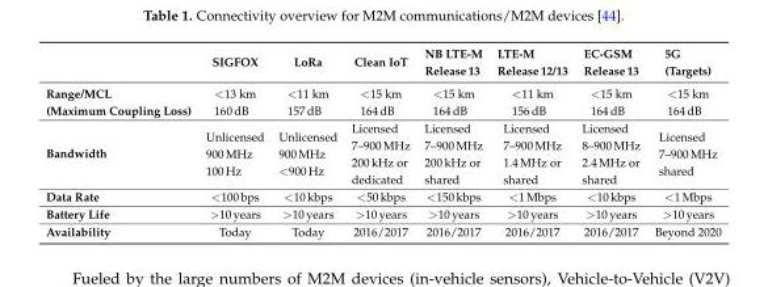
<table><thead><tr><td></td><td>SIGFOX</td><td>LoRa</td><td>Clean IoT</td><td>NB LTE-M Release 13</td><td>LTE-M Release 12/13</td><td>EC-GSM Release 13</td><td>5G (Targets)</td></tr></thead><tbody><tr><td>Range/MCL (Maximum Coupling Loss)</td><td>&lt;13 km 160 dB</td><td>&lt;11 km 157 dB</td><td>&lt;15 km 164 dB</td><td>&lt;15 km 164 dB</td><td>&lt;11 km 156 dB</td><td>&lt;15 km 164 dB</td><td>&lt;15 km 164 dB</td></tr><tr><td>Bandwidth</td><td>Unlicensed 900 MHz 100 Hz</td><td>Unlicensed 900 MHz &lt;900 Hz</td><td>Licensed 7–900 MHz 200 kHz or dedicated</td><td>Licensed 7–900 MHz 200 kHz or shared</td><td>Licensed 7–900 MHz 1.4 MHz or shared</td><td>Licensed 8–900 MHz 2.4 MHz or shared</td><td>Licensed 7–900 MHz shared</td></tr><tr><td>Data Rate</td><td>&lt;100 bps</td><td>&lt;10 kbps</td><td>&lt;50 kbps</td><td>&lt;150 kbps</td><td>&lt;1 Mbps</td><td>&lt;10 kbps</td><td>&lt;1 Mbps</td></tr><tr><td>Battery Life</td><td>&gt;10 years</td><td>&gt;10 years</td><td>&gt;10 years</td><td>&gt;10 years</td><td>&gt;10 years</td><td>&gt;10 years</td><td>&gt;10 years</td></tr><tr><td>Availability</td><td>Today</td><td>Today</td><td>2016/2017</td><td>2016/2017</td><td>2016/2017</td><td>2016/2017</td><td>Beyond 2020</td></tr></tbody></table>